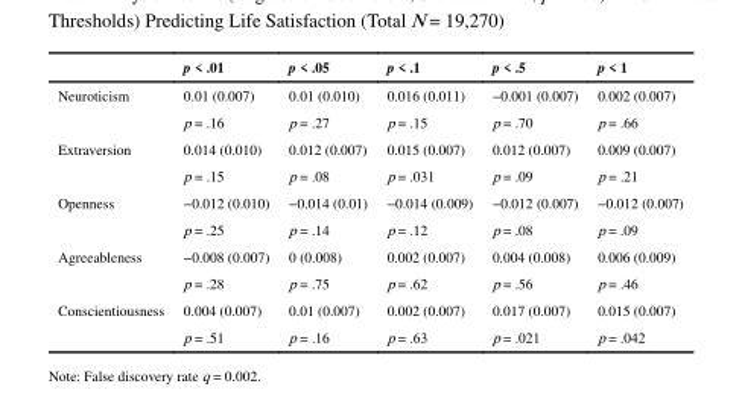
<table><thead><tr><td></td><td>p &lt; .01</td><td>p &lt; .05</td><td>p &lt; .1</td><td>p &lt; .5</td><td>p &lt; 1</td></tr></thead><tbody><tr><td rowspan="2">Neuroticism</td><td>0.01 (0.007)</td><td>0.01 (0.010)</td><td>0.016 (0.011)</td><td>−0.001 (0.007)</td><td>0.002 (0.007)</td></tr><tr><td>p = .16</td><td>p = .27</td><td>p = .15</td><td>p = .70</td><td>p = .66</td></tr><tr><td rowspan="2">Extraversion</td><td>0.014 (0.010)</td><td>0.012 (0.007)</td><td>0.015 (0.007)</td><td>0.012 (0.007)</td><td>0.009 (0.007)</td></tr><tr><td>p = .15</td><td>p = .08</td><td>p = .031</td><td>p = .09</td><td>p = .21</td></tr><tr><td rowspan="2">Openness</td><td>−0.012 (0.010)</td><td>−0.014 (0.01)</td><td>−0.014 (0.009)</td><td>−0.012 (0.007)</td><td>−0.012 (0.007)</td></tr><tr><td>p = .25</td><td>p = .14</td><td>p = .12</td><td>p = .08</td><td>p = .09</td></tr><tr><td rowspan="2">Agreeableness</td><td>−0.008 (0.007)</td><td>0 (0.008)</td><td>0.002 (0.007)</td><td>0.004 (0.008)</td><td>0.006 (0.009)</td></tr><tr><td>p = .28</td><td>p = .75</td><td>p = .62</td><td>p = .56</td><td>p = .46</td></tr><tr><td rowspan="2">Conscientiousness</td><td>0.004 (0.007)</td><td>0.01 (0.007)</td><td>0.002 (0.007)</td><td>0.017 (0.007)</td><td>0.015 (0.007)</td></tr><tr><td>p = .51</td><td>p = .16</td><td>p = .63</td><td>p = .021</td><td>p = .042</td></tr></tbody></table>